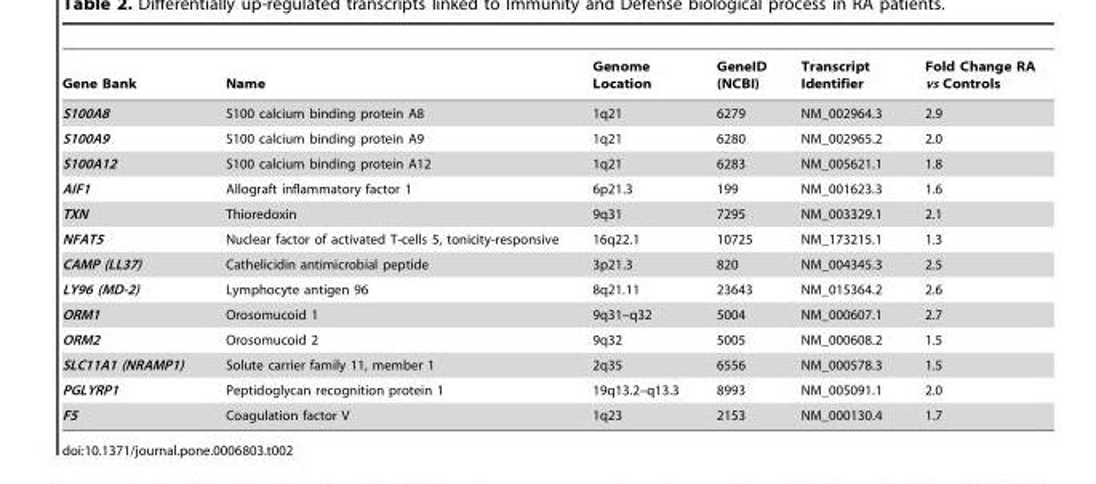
<table><thead><tr><td>Gene Bank</td><td>Name</td><td>Genome Location</td><td>GeneID (NCBI)</td><td>Transcript Identifier</td><td>Fold Change RA vs Controls</td></tr></thead><tbody><tr><td>S100A8</td><td>S100 calcium binding protein A8</td><td>1q21</td><td>6279</td><td>NM_002964.3</td><td>2.9</td></tr><tr><td>S100A9</td><td>S100 calcium binding protein A9</td><td>1q21</td><td>6280</td><td>NM_002965.2</td><td>2.0</td></tr><tr><td>S100A12</td><td>S100 calcium binding protein A12</td><td>1q21</td><td>6283</td><td>NM_005621.1</td><td>1.8</td></tr><tr><td>AIF1</td><td>Allograft inflammatory factor 1</td><td>6p21.3</td><td>199</td><td>NM_001623.3</td><td>1.6</td></tr><tr><td>TXN</td><td>Thioredoxin</td><td>9q31</td><td>7295</td><td>NM_003329.1</td><td>2.1</td></tr><tr><td>NFAT5</td><td>Nuclear factor of activated T-cells 5, tonicity-responsive</td><td>16q22.1</td><td>10725</td><td>NM_173215.1</td><td>1.3</td></tr><tr><td>CAMP (LL37)</td><td>Cathelicidin antimicrobial peptide</td><td>3p21.3</td><td>820</td><td>NM_004345.3</td><td>2.5</td></tr><tr><td>LY96 (MD-2)</td><td>Lymphocyte antigen 96</td><td>8q21.11</td><td>23643</td><td>NM_015364.2</td><td>2.6</td></tr><tr><td>ORM1</td><td>Orosomucoid 1</td><td>9q31–q32</td><td>5004</td><td>NM_000607.1</td><td>2.7</td></tr><tr><td>ORM2</td><td>Orosomucoid 2</td><td>9q32</td><td>5005</td><td>NM_000608.2</td><td>1.5</td></tr><tr><td>SLC11A1 (NRAMP1)</td><td>Solute carrier family 11, member 1</td><td>2q35</td><td>6556</td><td>NM_000578.3</td><td>1.5</td></tr><tr><td>PGLYRP1</td><td>Peptidoglycan recognition protein 1</td><td>19q13.2–q13.3</td><td>8993</td><td>NM_005091.1</td><td>2.0</td></tr><tr><td>F5</td><td>Coagulation factor V</td><td>1q23</td><td>2153</td><td>NM_000130.4</td><td>1.7</td></tr></tbody></table>